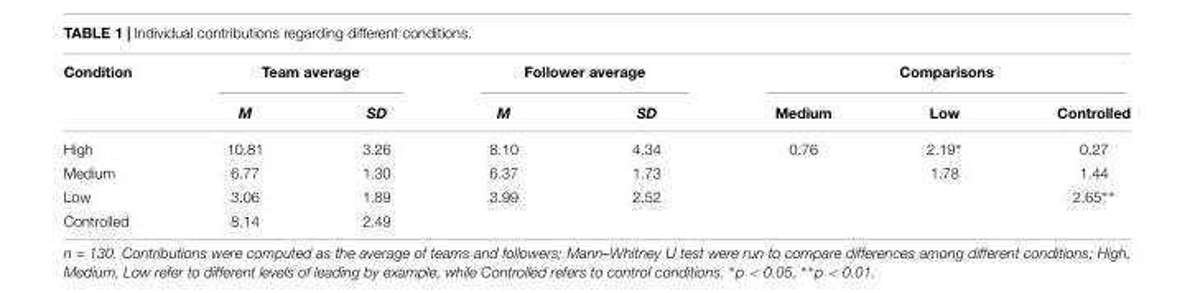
<table><thead><tr><td rowspan="2">Condition</td><td colspan="2">Team average</td><td colspan="2">Follower average</td><td colspan="3">Comparisons</td></tr><tr><td>M</td><td>SD</td><td>M</td><td>SD</td><td>Medium</td><td>Low</td><td>Controlled</td></tr></thead><tbody><tr><td>High</td><td>10.81</td><td>3.26</td><td>8.10</td><td>4.34</td><td>0.76</td><td>2.19∗</td><td>0.27</td></tr><tr><td>Medium</td><td>6.77</td><td>1.30</td><td>6.37</td><td>1.73</td><td></td><td>1.78</td><td>1.44</td></tr><tr><td>Low</td><td>3.06</td><td>1.89</td><td>3.99</td><td>2.52</td><td></td><td></td><td>2.65∗∗</td></tr><tr><td>Controlled</td><td>8.14</td><td>2.49</td><td></td><td></td><td></td><td></td><td></td></tr></tbody></table>